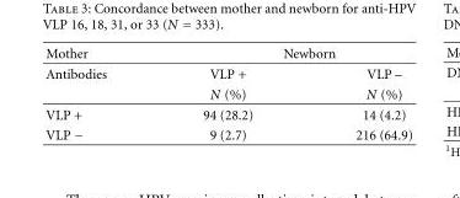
<table><thead><tr><td rowspan="2">Mother Antibodies</td><td colspan="2">Newborn</td></tr><tr><td>VLP +</td><td>VLP –</td></tr></thead><tbody><tr><td></td><td>N (%)</td><td>N (%)</td></tr><tr><td>VLP +</td><td>94 (28.2)</td><td>14 (4.2)</td></tr><tr><td>VLP −</td><td>9 (2.7)</td><td>216 (64.9)</td></tr></tbody></table>